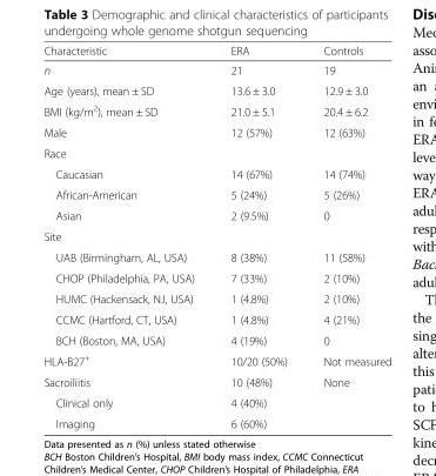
<table><thead><tr><td>Characteristic</td><td>ERA</td><td>Controls</td></tr></thead><tbody><tr><td>n</td><td>21</td><td>19</td></tr><tr><td>Age (years), mean ± SD</td><td>13.6 ± 3.0</td><td>12.9 ± 3.0</td></tr><tr><td>BMI (kg/m<sup>2</sup>), mean ± SD</td><td>21.0 ± 5.1</td><td>20.4 ± 6.2</td></tr><tr><td>Male</td><td>12 (57%)</td><td>12 (63%)</td></tr><tr><td colspan="3">Race</td></tr><tr><td>Caucasian</td><td>14 (67%)</td><td>14 (74%)</td></tr><tr><td>African-American</td><td>5 (24%)</td><td>5 (26%)</td></tr><tr><td>Asian</td><td>2 (9.5%)</td><td>0</td></tr><tr><td colspan="3">Site</td></tr><tr><td>UAB (Birmingham, AL, USA)</td><td>8 (38%)</td><td>11 (58%)</td></tr><tr><td>CHOP (Philadelphia, PA, USA)</td><td>7 (33%)</td><td>2 (10%)</td></tr><tr><td>HUMC (Hackensack, NJ, USA)</td><td>1 (4.8%)</td><td>2 (10%)</td></tr><tr><td>CCMC (Hartford, CT, USA)</td><td>1 (4.8%)</td><td>4 (21%)</td></tr><tr><td>BCH (Boston, MA, USA)</td><td>4 (19%)</td><td>0</td></tr><tr><td>HLA-B27<sup>+</sup></td><td>10/20 (50%)</td><td>Not measured</td></tr><tr><td>Sacroiliitis</td><td>10 (48%)</td><td rowspan="3">None</td></tr><tr><td>Clinical only</td><td>4 (40%)</td></tr><tr><td>Imaging</td><td>6 (60%)</td></tr></tbody></table>